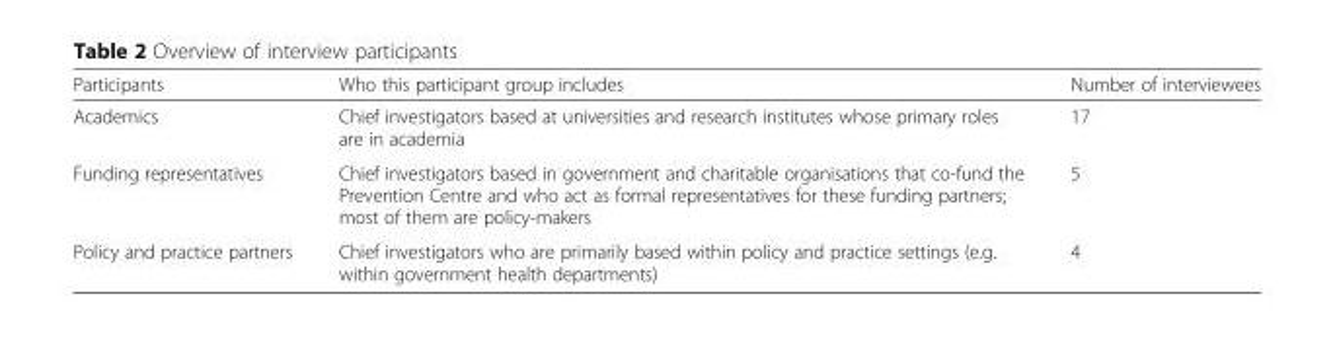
<table><thead><tr><td>Participants</td><td>Who this participant group includes</td><td>Number of interviewees</td></tr></thead><tbody><tr><td>Academics</td><td>Chief investigators based at universities and research institutes whose primary roles are in academia</td><td>17</td></tr><tr><td>Funding representatives</td><td>Chief investigators based in government and charitable organisations that co-fund the Prevention Centre and who act as formal representatives for these funding partners; most of them are policy-makers</td><td>5</td></tr><tr><td>Policy and practice partners</td><td>Chief investigators who are primarily based within policy and practice settings (e.g. within government health departments)</td><td>4</td></tr></tbody></table>